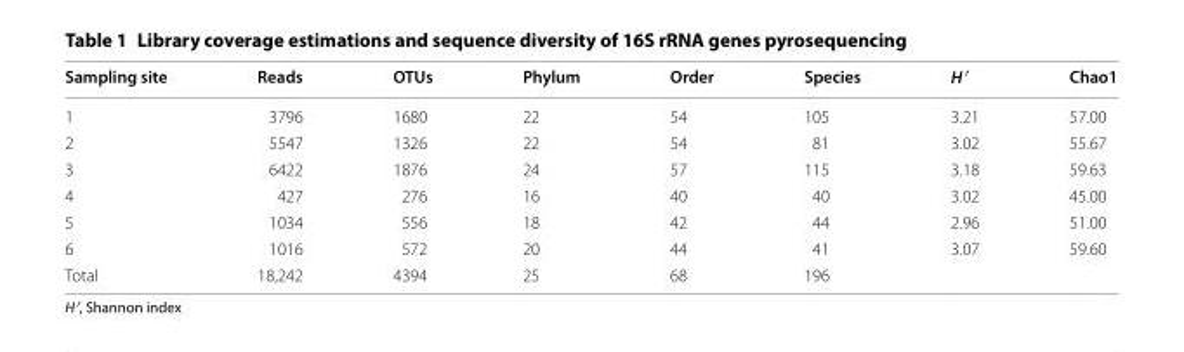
<table><thead><tr><td>Sampling site</td><td>Reads</td><td>OTUs</td><td>Phylum</td><td>Order</td><td>Species</td><td>H′</td><td>Chao1</td></tr></thead><tbody><tr><td>1</td><td>3796</td><td>1680</td><td>22</td><td>54</td><td>105</td><td>3.21</td><td>57.00</td></tr><tr><td>2</td><td>5547</td><td>1326</td><td>22</td><td>54</td><td>81</td><td>3.02</td><td>55.67</td></tr><tr><td>3</td><td>6422</td><td>1876</td><td>24</td><td>57</td><td>115</td><td>3.18</td><td>59.63</td></tr><tr><td>4</td><td>427</td><td>276</td><td>16</td><td>40</td><td>40</td><td>3.02</td><td>45.00</td></tr><tr><td>5</td><td>1034</td><td>556</td><td>18</td><td>42</td><td>44</td><td>2.96</td><td>51.00</td></tr><tr><td>6</td><td>1016</td><td>572</td><td>20</td><td>44</td><td>41</td><td>3.07</td><td>59.60</td></tr><tr><td>Total</td><td>18,242</td><td>4394</td><td>25</td><td>68</td><td>196</td><td></td><td></td></tr></tbody></table>